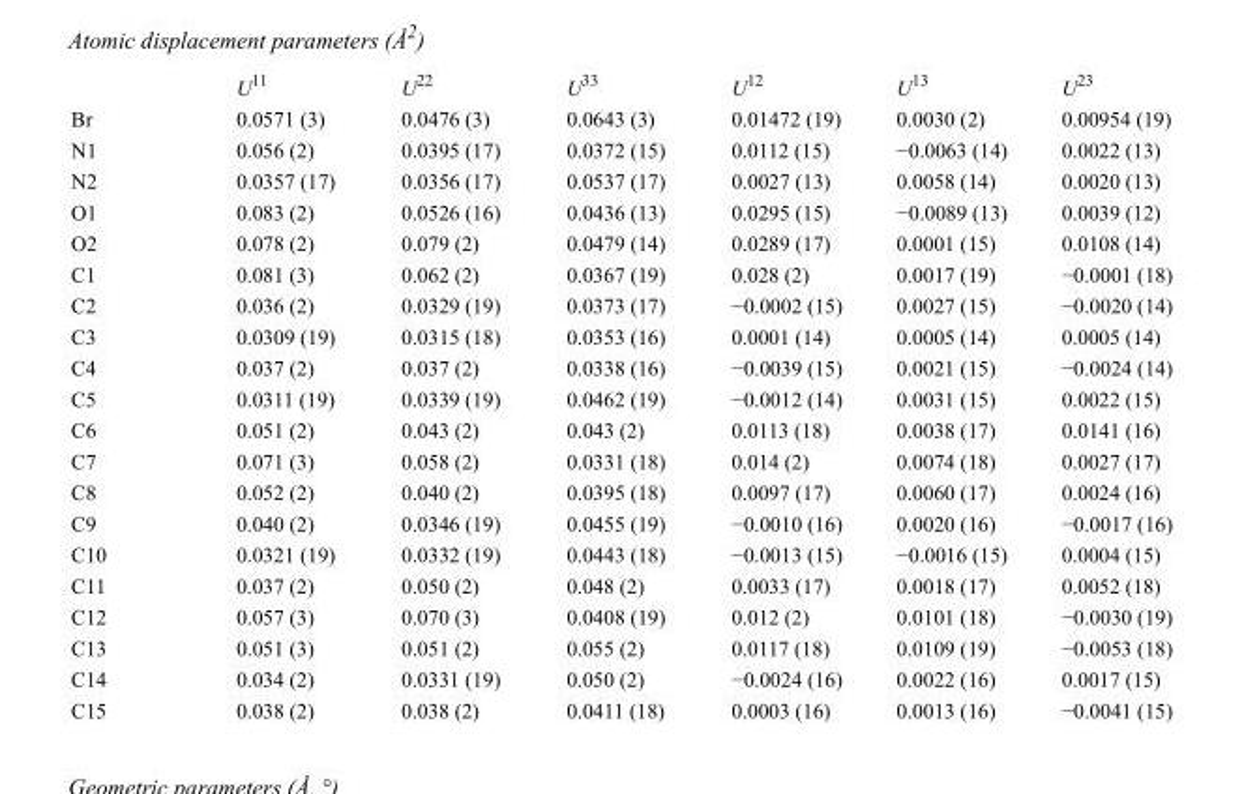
<table><thead><tr><td></td><td>U<sup>11</sup></td><td>U<sup>22</sup></td><td>U<sup>33</sup></td><td>U<sup>12</sup></td><td>U<sup>13</sup></td><td>U<sup>23</sup></td></tr></thead><tbody><tr><td>Br</td><td>0.0571 (3)</td><td>0.0476 (3)</td><td>0.0643 (3)</td><td>0.01472 (19)</td><td>0.0030 (2)</td><td>0.00954 (19)</td></tr><tr><td>N1</td><td>0.056 (2)</td><td>0.0395 (17)</td><td>0.0372 (15)</td><td>0.0112 (15)</td><td>−0.0063 (14)</td><td>0.0022 (13)</td></tr><tr><td>N2</td><td>0.0357 (17)</td><td>0.0356 (17)</td><td>0.0537 (17)</td><td>0.0027 (13)</td><td>0.0058 (14)</td><td>0.0020 (13)</td></tr><tr><td>O1</td><td>0.083 (2)</td><td>0.0526 (16)</td><td>0.0436 (13)</td><td>0.0295 (15)</td><td>−0.0089 (13)</td><td>0.0039 (12)</td></tr><tr><td>O2</td><td>0.078 (2)</td><td>0.079 (2)</td><td>0.0479 (14)</td><td>0.0289 (17)</td><td>0.0001 (15)</td><td>0.0108 (14)</td></tr><tr><td>C1</td><td>0.081 (3)</td><td>0.062 (2)</td><td>0.0367 (19)</td><td>0.028 (2)</td><td>0.0017 (19)</td><td>−0.0001 (18)</td></tr><tr><td>C2</td><td>0.036 (2)</td><td>0.0329 (19)</td><td>0.0373 (17)</td><td>−0.0002 (15)</td><td>0.0027 (15)</td><td>−0.0020 (14)</td></tr><tr><td>C3</td><td>0.0309 (19)</td><td>0.0315 (18)</td><td>0.0353 (16)</td><td>0.0001 (14)</td><td>0.0005 (14)</td><td>0.0005 (14)</td></tr><tr><td>C4</td><td>0.037 (2)</td><td>0.037 (2)</td><td>0.0338 (16)</td><td>−0.0039 (15)</td><td>0.0021 (15)</td><td>−0.0024 (14)</td></tr><tr><td>C5</td><td>0.0311 (19)</td><td>0.0339 (19)</td><td>0.0462 (19)</td><td>−0.0012 (14)</td><td>0.0031 (15)</td><td>0.0022 (15)</td></tr><tr><td>C6</td><td>0.051 (2)</td><td>0.043 (2)</td><td>0.043 (2)</td><td>0.0113 (18)</td><td>0.0038 (17)</td><td>0.0141 (16)</td></tr><tr><td>C7</td><td>0.071 (3)</td><td>0.058 (2)</td><td>0.0331 (18)</td><td>0.014 (2)</td><td>0.0074 (18)</td><td>0.0027 (17)</td></tr><tr><td>C8</td><td>0.052 (2)</td><td>0.040 (2)</td><td>0.0395 (18)</td><td>0.0097 (17)</td><td>0.0060 (17)</td><td>0.0024 (16)</td></tr><tr><td>C9</td><td>0.040 (2)</td><td>0.0346 (19)</td><td>0.0455 (19)</td><td>−0.0010 (16)</td><td>0.0020 (16)</td><td>−0.0017 (16)</td></tr><tr><td>C10</td><td>0.0321 (19)</td><td>0.0332 (19)</td><td>0.0443 (18)</td><td>−0.0013 (15)</td><td>−0.0016 (15)</td><td>0.0004 (15)</td></tr><tr><td>C11</td><td>0.037 (2)</td><td>0.050 (2)</td><td>0.048 (2)</td><td>0.0033 (17)</td><td>0.0018 (17)</td><td>0.0052 (18)</td></tr><tr><td>C12</td><td>0.057 (3)</td><td>0.070 (3)</td><td>0.0408 (19)</td><td>0.012 (2)</td><td>0.0101 (18)</td><td>−0.0030 (19)</td></tr><tr><td>C13</td><td>0.051 (3)</td><td>0.051 (2)</td><td>0.055 (2)</td><td>0.0117 (18)</td><td>0.0109 (19)</td><td>−0.0053 (18)</td></tr><tr><td>C14</td><td>0.034 (2)</td><td>0.0331 (19)</td><td>0.050 (2)</td><td>−0.0024 (16)</td><td>0.0022 (16)</td><td>0.0017 (15)</td></tr><tr><td>C15</td><td>0.038 (2)</td><td>0.038 (2)</td><td>0.0411 (18)</td><td>0.0003 (16)</td><td>0.0013 (16)</td><td>−0.0041 (15)</td></tr></tbody></table>